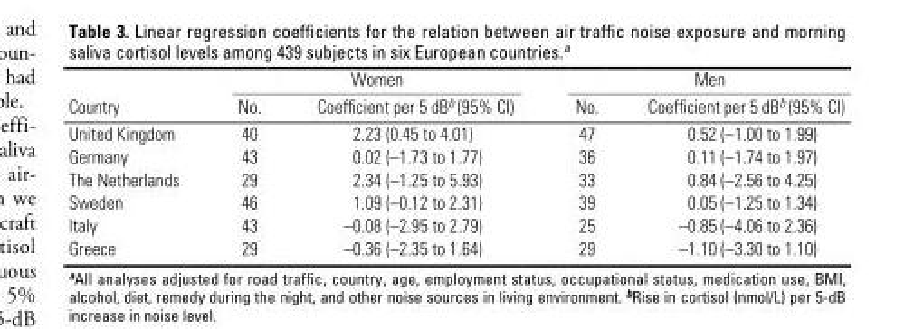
<table><thead><tr><td rowspan="2">Country</td><td colspan="2">Women</td><td colspan="2">Men</td></tr><tr><td>No.</td><td>Coefficient per 5 dB<sup>b</sup> (95% CI)</td><td>No.</td><td>Coefficient per 5 dB<sup>b</sup> (95% CI)</td></tr></thead><tbody><tr><td>United Kingdom</td><td>40</td><td>2.23 (0.45 to 4.01)</td><td>47</td><td>0.52 (–1.00 to 1.99)</td></tr><tr><td>Germany</td><td>43</td><td>0.02 (–1.73 to 1.77)</td><td>36</td><td>0.11 (–1.74 to 1.97)</td></tr><tr><td>The Netherlands</td><td>29</td><td>2.34 (–1.25 to 5.93)</td><td>33</td><td>0.84 (–2.56 to 4.25)</td></tr><tr><td>Sweden</td><td>46</td><td>1.09 (–0.12 to 2.31)</td><td>39</td><td>0.05 (–1.25 to 1.34)</td></tr><tr><td>Italy</td><td>43</td><td>–0.08 (–2.95 to 2.79)</td><td>25</td><td>–0.85 (–4.06 to 2.36)</td></tr><tr><td>Greece</td><td>29</td><td>–0.36 (–2.35 to 1.64)</td><td>29</td><td>–1.10 (–3.30 to 1.10)</td></tr></tbody></table>